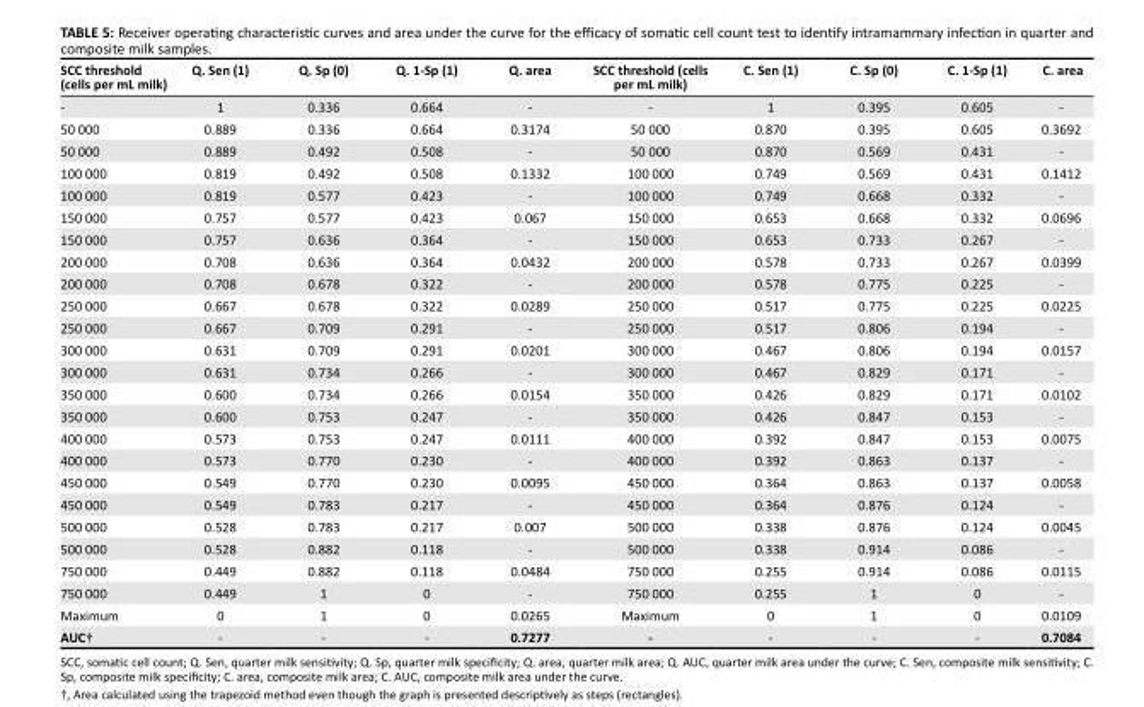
<table><thead><tr><td>SCC threshold (cells per mL milk)</td><td>Q. Sen (1)</td><td>Q. Sp (0)</td><td>Q. 1-Sp (1)</td><td>Q. area</td><td>SCC threshold (cells per mL milk)</td><td>C. Sen (1)</td><td>C. Sp (0)</td><td>C. 1-Sp (1)</td><td>C. area</td></tr></thead><tbody><tr><td>-</td><td>1</td><td>0.336</td><td>0.664</td><td>-</td><td>-</td><td>1</td><td>0.395</td><td>0.605</td><td>-</td></tr><tr><td>50 000</td><td>0.889</td><td>0.336</td><td>0.664</td><td>0.3174</td><td>50 000</td><td>0.870</td><td>0.395</td><td>0.605</td><td>0.3692</td></tr><tr><td>50 000</td><td>0.889</td><td>0.492</td><td>0.508</td><td>-</td><td>50 000</td><td>0.870</td><td>0.569</td><td>0.431</td><td>-</td></tr><tr><td>100 000</td><td>0.819</td><td>0.492</td><td>0.508</td><td>0.1332</td><td>100 000</td><td>0.749</td><td>0.569</td><td>0.431</td><td>0.1412</td></tr><tr><td>100 000</td><td>0.819</td><td>0.577</td><td>0.423</td><td>-</td><td>100 000</td><td>0.749</td><td>0.668</td><td>0.332</td><td>-</td></tr><tr><td>150 000</td><td>0.757</td><td>0.577</td><td>0.423</td><td>0.067</td><td>150 000</td><td>0.653</td><td>0.668</td><td>0.332</td><td>0.0696</td></tr><tr><td>150 000</td><td>0.757</td><td>0.636</td><td>0.364</td><td>-</td><td>150 000</td><td>0.653</td><td>0.733</td><td>0.267</td><td>-</td></tr><tr><td>200 000</td><td>0.708</td><td>0.636</td><td>0.364</td><td>0.0432</td><td>200 000</td><td>0.578</td><td>0.733</td><td>0.267</td><td>0.0399</td></tr><tr><td>200 000</td><td>0.708</td><td>0.678</td><td>0.322</td><td>-</td><td>200 000</td><td>0.578</td><td>0.775</td><td>0.225</td><td>-</td></tr><tr><td>250 000</td><td>0.667</td><td>0.678</td><td>0.322</td><td>0.0289</td><td>250 000</td><td>0.517</td><td>0.775</td><td>0.225</td><td>0.0225</td></tr><tr><td>250 000</td><td>0.667</td><td>0.709</td><td>0.291</td><td>-</td><td>250 000</td><td>0.517</td><td>0.806</td><td>0.194</td><td>-</td></tr><tr><td>300 000</td><td>0.631</td><td>0.709</td><td>0.291</td><td>0.0201</td><td>300 000</td><td>0.467</td><td>0.806</td><td>0.194</td><td>0.0157</td></tr><tr><td>300 000</td><td>0.631</td><td>0.734</td><td>0.266</td><td>-</td><td>300 000</td><td>0.467</td><td>0.829</td><td>0.171</td><td>-</td></tr><tr><td>350 000</td><td>0.600</td><td>0.734</td><td>0.266</td><td>0.0154</td><td>350 000</td><td>0.426</td><td>0.829</td><td>0.171</td><td>0.0102</td></tr><tr><td>350 000</td><td>0.600</td><td>0.753</td><td>0.247</td><td>-</td><td>350 000</td><td>0.426</td><td>0.847</td><td>0.153</td><td>-</td></tr><tr><td>400 000</td><td>0.573</td><td>0.753</td><td>0.247</td><td>0.0111</td><td>400 000</td><td>0.392</td><td>0.847</td><td>0.153</td><td>0.0075</td></tr><tr><td>400 000</td><td>0.573</td><td>0.770</td><td>0.230</td><td>-</td><td>400 000</td><td>0.392</td><td>0.863</td><td>0.137</td><td>-</td></tr><tr><td>450 000</td><td>0.549</td><td>0.770</td><td>0.230</td><td>0.0095</td><td>450 000</td><td>0.364</td><td>0.863</td><td>0.137</td><td>0.0058</td></tr><tr><td>450 000</td><td>0.549</td><td>0.783</td><td>0.217</td><td>-</td><td>450 000</td><td>0.364</td><td>0.876</td><td>0.124</td><td>-</td></tr><tr><td>500 000</td><td>0.528</td><td>0.783</td><td>0.217</td><td>0.007</td><td>500 000</td><td>0.338</td><td>0.876</td><td>0.124</td><td>0.0045</td></tr><tr><td>500 000</td><td>0.528</td><td>0.882</td><td>0.118</td><td>-</td><td>500 000</td><td>0.338</td><td>0.914</td><td>0.086</td><td>-</td></tr><tr><td>750 000</td><td>0.449</td><td>0.882</td><td>0.118</td><td>0.0484</td><td>750 000</td><td>0.255</td><td>0.914</td><td>0.086</td><td>0.0115</td></tr><tr><td>750 000</td><td>0.449</td><td>1</td><td>0</td><td>-</td><td>750 000</td><td>0.255</td><td>1</td><td>0</td><td>-</td></tr><tr><td>Maximum</td><td>0</td><td>1</td><td>0</td><td>0.0265</td><td>Maximum</td><td>0</td><td>1</td><td>0</td><td>0.0109</td></tr><tr><td>AUC<sup>†</sup></td><td>-</td><td>-</td><td>-</td><td>0.7277</td><td>-</td><td>-</td><td>-</td><td>-</td><td>0.7084</td></tr></tbody></table>